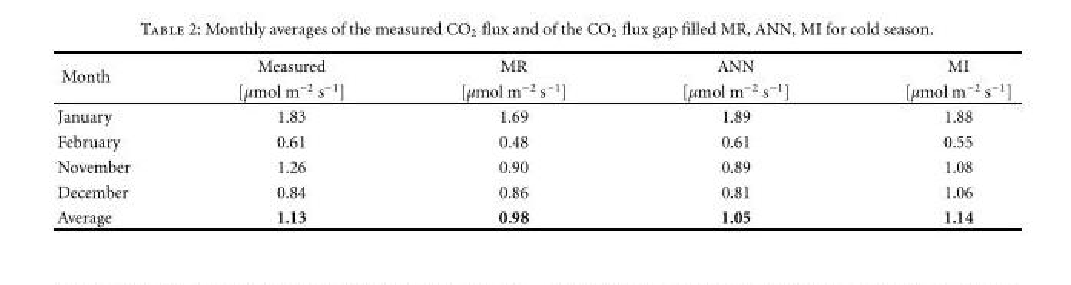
<table><thead><tr><td rowspan="2">Month</td><td rowspan="2">Measured [µmol m<sup>−2</sup> s<sup>−1</sup>]</td><td rowspan="2">MR [µmol m<sup>−2</sup> s<sup>−1</sup>]</td><td rowspan="2">ANN [µmol m<sup>−2</sup> s<sup>−1</sup>]</td><td rowspan="2">MI [µmol m<sup>−2</sup> s<sup>−1</sup>]</td></tr><tr></tr></thead><tbody><tr><td>January</td><td>1.83</td><td>1.69</td><td>1.89</td><td>1.88</td></tr><tr><td>February</td><td>0.61</td><td>0.48</td><td>0.61</td><td>0.55</td></tr><tr><td>November</td><td>1.26</td><td>0.90</td><td>0.89</td><td>1.08</td></tr><tr><td>December</td><td>0.84</td><td>0.86</td><td>0.81</td><td>1.06</td></tr><tr><td>Average</td><td>1.13</td><td>0.98</td><td>1.05</td><td>1.14</td></tr></tbody></table>